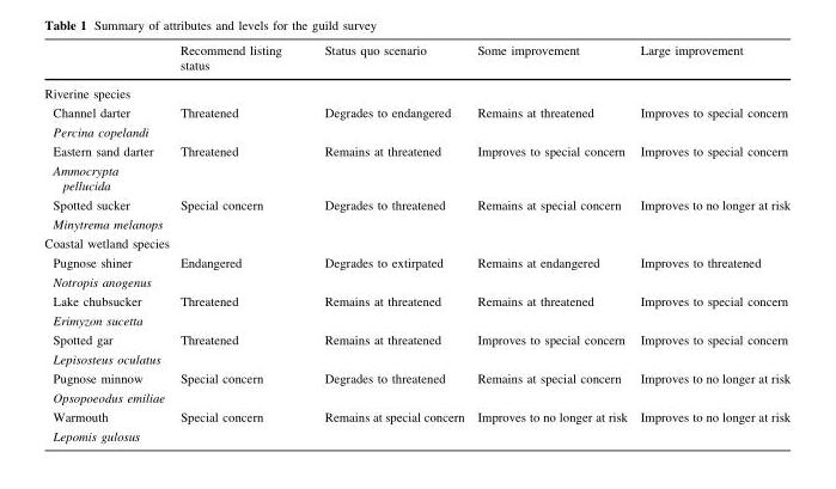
<table><thead><tr><td></td><td>Recommend listing status</td><td>Status quo scenario</td><td>Some improvement</td><td>Large improvement</td></tr></thead><tbody><tr><td colspan="5">Riverine species</td></tr><tr><td>Channel darter Percina copelandi</td><td>Threatened</td><td>Degrades to endangered</td><td>Remains at threatened</td><td>Improves to special concern</td></tr><tr><td>Eastern sand darter Ammocrypta pellucida</td><td>Threatened</td><td>Remains at threatened</td><td>Improves to special concern</td><td>Improves to special concern</td></tr><tr><td>Spotted sucker Minytrema melanops</td><td>Special concern</td><td>Degrades to threatened</td><td>Remains at special concern</td><td>Improves to no longer at risk</td></tr><tr><td colspan="5">Coastal wetland species</td></tr><tr><td>Pugnose shiner Notropis anogenus</td><td>Endangered</td><td>Degrades to extirpated</td><td>Remains at endangered</td><td>Improves to threatened</td></tr><tr><td>Lake chubsucker Erimyzon sucetta</td><td>Threatened</td><td>Remains at threatened</td><td>Remains at threatened</td><td>Improves to special concern</td></tr><tr><td>Spotted gar Lepisosteus oculatus</td><td>Threatened</td><td>Remains at threatened</td><td>Improves to special concern</td><td>Improves to special concern</td></tr><tr><td>Pugnose minnow Opsopoeodus emiliae</td><td>Special concern</td><td>Degrades to threatened</td><td>Remains at special concern</td><td>Improves to no longer at risk</td></tr><tr><td>Warmouth Lepomis gulosus</td><td>Special concern</td><td>Remains at special concern</td><td>Improves to no longer at risk</td><td>Improves to no longer at risk</td></tr></tbody></table>